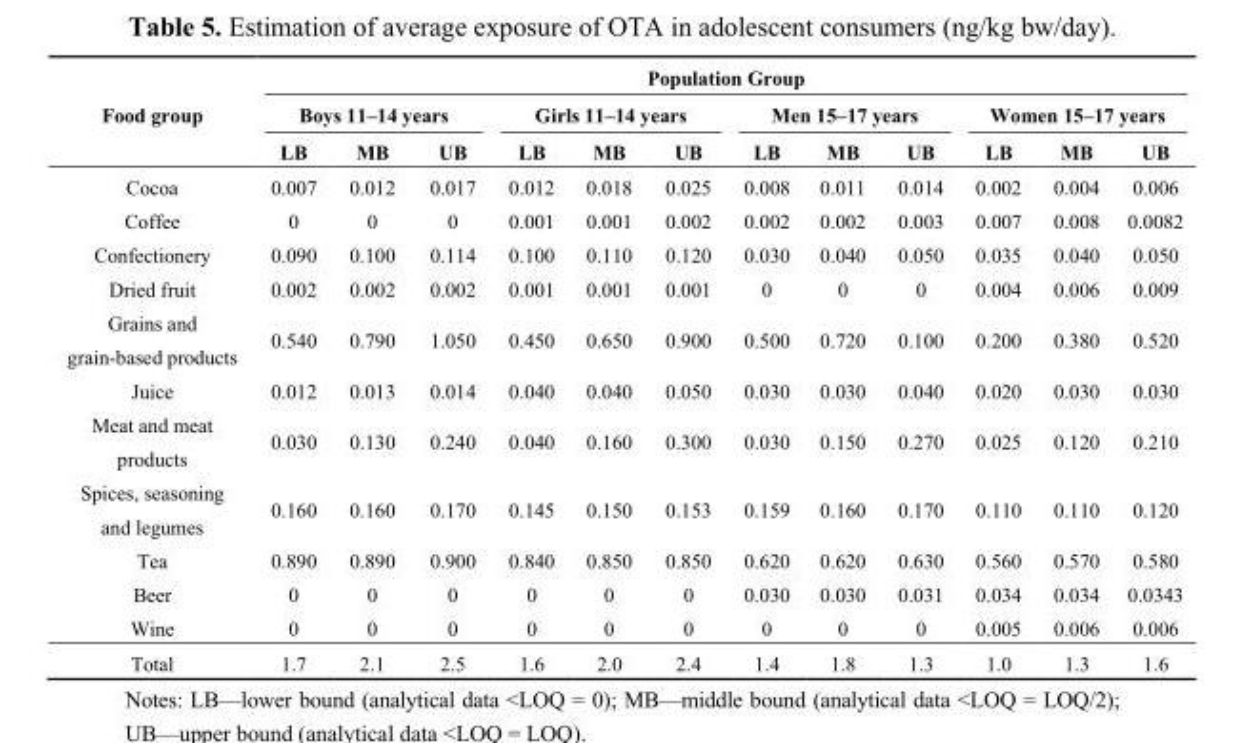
<table><thead><tr><td rowspan="3">Food group</td><td colspan="12">Population Group</td></tr><tr><td colspan="3">Boys 11–14 years</td><td colspan="3">Girls 11–14 years</td><td colspan="3">Men 15–17 years</td><td colspan="3">Women 15–17 years</td></tr><tr><td>LB</td><td>MB</td><td>UB</td><td>LB</td><td>MB</td><td>UB</td><td>LB</td><td>MB</td><td>UB</td><td>LB</td><td>MB</td><td>UB</td></tr></thead><tbody><tr><td>Cocoa</td><td>0.007</td><td>0.012</td><td>0.017</td><td>0.012</td><td>0.018</td><td>0.025</td><td>0.008</td><td>0.011</td><td>0.014</td><td>0.002</td><td>0.004</td><td>0.006</td></tr><tr><td>Coffee</td><td>0</td><td>0</td><td>0</td><td>0.001</td><td>0.001</td><td>0.002</td><td>0.002</td><td>0.002</td><td>0.003</td><td>0.007</td><td>0.008</td><td>0.0082</td></tr><tr><td>Confectionery</td><td>0.090</td><td>0.100</td><td>0.114</td><td>0.100</td><td>0.110</td><td>0.120</td><td>0.030</td><td>0.040</td><td>0.050</td><td>0.035</td><td>0.040</td><td>0.050</td></tr><tr><td>Dried fruit</td><td>0.002</td><td>0.002</td><td>0.002</td><td>0.001</td><td>0.001</td><td>0.001</td><td>0</td><td>0</td><td>0</td><td>0.004</td><td>0.006</td><td>0.009</td></tr><tr><td>Grains and grain-based products</td><td>0.540</td><td>0.790</td><td>1.050</td><td>0.450</td><td>0.650</td><td>0.900</td><td>0.500</td><td>0.720</td><td>0.100</td><td>0.200</td><td>0.380</td><td>0.520</td></tr><tr><td>Juice</td><td>0.012</td><td>0.013</td><td>0.014</td><td>0.040</td><td>0.040</td><td>0.050</td><td>0.030</td><td>0.030</td><td>0.040</td><td>0.020</td><td>0.030</td><td>0.030</td></tr><tr><td>Meat and meat products</td><td>0.030</td><td>0.130</td><td>0.240</td><td>0.040</td><td>0.160</td><td>0.300</td><td>0.030</td><td>0.150</td><td>0.270</td><td>0.025</td><td>0.120</td><td>0.210</td></tr><tr><td>Spices, seasoning and legumes</td><td>0.160</td><td>0.160</td><td>0.170</td><td>0.145</td><td>0.150</td><td>0.153</td><td>0.159</td><td>0.160</td><td>0.170</td><td>0.110</td><td>0.110</td><td>0.120</td></tr><tr><td>Tea</td><td>0.890</td><td>0.890</td><td>0.900</td><td>0.840</td><td>0.850</td><td>0.850</td><td>0.620</td><td>0.620</td><td>0.630</td><td>0.560</td><td>0.570</td><td>0.580</td></tr><tr><td>Beer</td><td>0</td><td>0</td><td>0</td><td>0</td><td>0</td><td>0</td><td>0.030</td><td>0.030</td><td>0.031</td><td>0.034</td><td>0.034</td><td>0.0343</td></tr><tr><td>Wine</td><td>0</td><td>0</td><td>0</td><td>0</td><td>0</td><td>0</td><td>0</td><td>0</td><td>0</td><td>0.005</td><td>0.006</td><td>0.006</td></tr><tr><td>Total</td><td>1.7</td><td>2.1</td><td>2.5</td><td>1.6</td><td>2.0</td><td>2.4</td><td>1.4</td><td>1.8</td><td>1.3</td><td>1.0</td><td>1.3</td><td>1.6</td></tr></tbody></table>